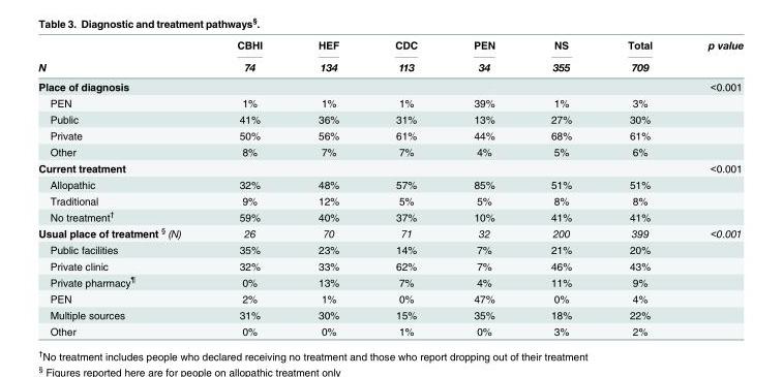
<table><thead><tr><td rowspan="2">N</td><td rowspan="2">CBHI 74</td><td rowspan="2">HEF 134</td><td rowspan="2">CDC 113</td><td rowspan="2">PEN 34</td><td rowspan="2">NS 355</td><td rowspan="2">Total 709</td><td rowspan="2">p value</td></tr><tr></tr></thead><tbody><tr><td>Place of diagnosis</td><td></td><td></td><td></td><td></td><td></td><td></td><td>&lt;0.001</td></tr><tr><td>PEN</td><td>1%</td><td>1%</td><td>1%</td><td>39%</td><td>1%</td><td>3%</td><td></td></tr><tr><td>Public</td><td>41%</td><td>36%</td><td>31%</td><td>13%</td><td>27%</td><td>30%</td><td></td></tr><tr><td>Private</td><td>50%</td><td>56%</td><td>61%</td><td>44%</td><td>68%</td><td>61%</td><td></td></tr><tr><td>Other</td><td>8%</td><td>7%</td><td>7%</td><td>4%</td><td>5%</td><td>6%</td><td></td></tr><tr><td>Current treatment</td><td></td><td></td><td></td><td></td><td></td><td></td><td>&lt;0.001</td></tr><tr><td>Allopathic</td><td>32%</td><td>48%</td><td>57%</td><td>85%</td><td>51%</td><td>51%</td><td></td></tr><tr><td>Traditional</td><td>9%</td><td>12%</td><td>5%</td><td>5%</td><td>8%</td><td>8%</td><td></td></tr><tr><td>No treatment<sup>†</sup></td><td>59%</td><td>40%</td><td>37%</td><td>10%</td><td>41%</td><td>41%</td><td></td></tr><tr><td>Usual place of treatment <sup>§</sup> (N)</td><td>26</td><td>70</td><td>71</td><td>32</td><td>200</td><td>399</td><td>&lt;0.001</td></tr><tr><td>Public facilities</td><td>35%</td><td>23%</td><td>14%</td><td>7%</td><td>21%</td><td>20%</td><td></td></tr><tr><td>Private clinic</td><td>32%</td><td>33%</td><td>62%</td><td>7%</td><td>46%</td><td>43%</td><td></td></tr><tr><td>Private pharmacy<sup>¶</sup></td><td>0%</td><td>13%</td><td>7%</td><td>4%</td><td>11%</td><td>9%</td><td></td></tr><tr><td>PEN</td><td>2%</td><td>1%</td><td>0%</td><td>47%</td><td>0%</td><td>4%</td><td></td></tr><tr><td>Multiple sources</td><td>31%</td><td>30%</td><td>15%</td><td>35%</td><td>18%</td><td>22%</td><td></td></tr><tr><td>Other</td><td>0%</td><td>0%</td><td>1%</td><td>0%</td><td>3%</td><td>2%</td><td></td></tr></tbody></table>